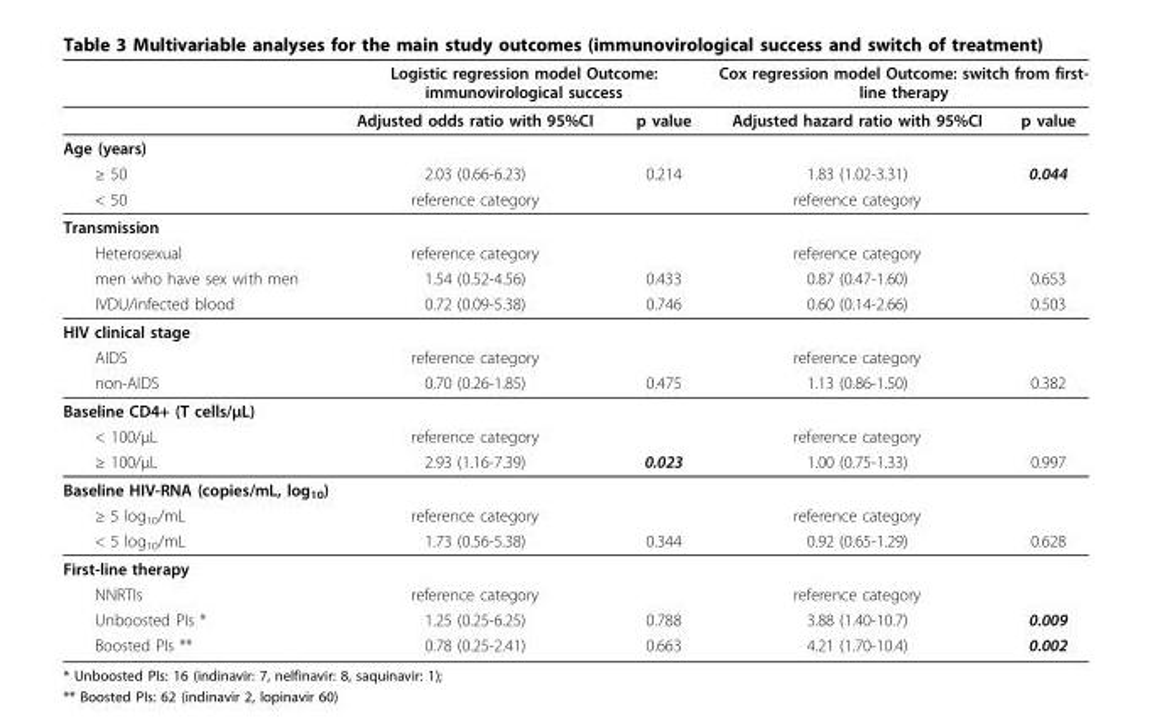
<table><thead><tr><td rowspan="2"></td><td colspan="2">Logistic regression model Outcome: immunovirological success</td><td colspan="2">Cox regression model Outcome: switch from first- line therapy</td></tr><tr><td>Adjusted odds ratio with 95%CI</td><td>p value</td><td>Adjusted hazard ratio with 95%CI</td><td>p value</td></tr></thead><tbody><tr><td colspan="5">Age (years)</td></tr><tr><td>≥ 50</td><td>2.03 (0.66-6.23)</td><td>0.214</td><td>1.83 (1.02-3.31)</td><td>0.044</td></tr><tr><td>&lt; 50</td><td>reference category</td><td></td><td>reference category</td><td></td></tr><tr><td colspan="5">Transmission</td></tr><tr><td>Heterosexual</td><td>reference category</td><td></td><td>reference category</td><td></td></tr><tr><td>men who have sex with men</td><td>1.54 (0.52-4.56)</td><td>0.433</td><td>0.87 (0.47-1.60)</td><td>0.653</td></tr><tr><td>IVDU/infected blood</td><td>0.72 (0.09-5.38)</td><td>0.746</td><td>0.60 (0.14-2.66)</td><td>0.503</td></tr><tr><td colspan="5">HIV clinical stage</td></tr><tr><td>AIDS</td><td>reference category</td><td></td><td>reference category</td><td></td></tr><tr><td>non-AIDS</td><td>0.70 (0.26-1.85)</td><td>0.475</td><td>1.13 (0.86-1.50)</td><td>0.382</td></tr><tr><td colspan="5">Baseline CD4+ (T cells/μL)</td></tr><tr><td>&lt; 100/μL</td><td>reference category</td><td></td><td>reference category</td><td></td></tr><tr><td>≥ 100/μL</td><td>2.93 (1.16-7.39)</td><td>0.023</td><td>1.00 (0.75-1.33)</td><td>0.997</td></tr><tr><td colspan="5">Baseline HIV-RNA (copies/mL, log<sub>10</sub>)</td></tr><tr><td>≥ 5 log<sub>10</sub>/mL</td><td>reference category</td><td></td><td>reference category</td><td></td></tr><tr><td>&lt; 5 log<sub>10</sub>/mL</td><td>1.73 (0.56-5.38)</td><td>0.344</td><td>0.92 (0.65-1.29)</td><td>0.628</td></tr><tr><td colspan="5">First-line therapy</td></tr><tr><td>NNRTIs</td><td>reference category</td><td></td><td>reference category</td><td></td></tr><tr><td>Unboosted PIs *</td><td>1.25 (0.25-6.25)</td><td>0.788</td><td>3.88 (1.40-10.7)</td><td>0.009</td></tr><tr><td>Boosted PIs **</td><td>0.78 (0.25-2.41)</td><td>0.663</td><td>4.21 (1.70-10.4)</td><td>0.002</td></tr></tbody></table>